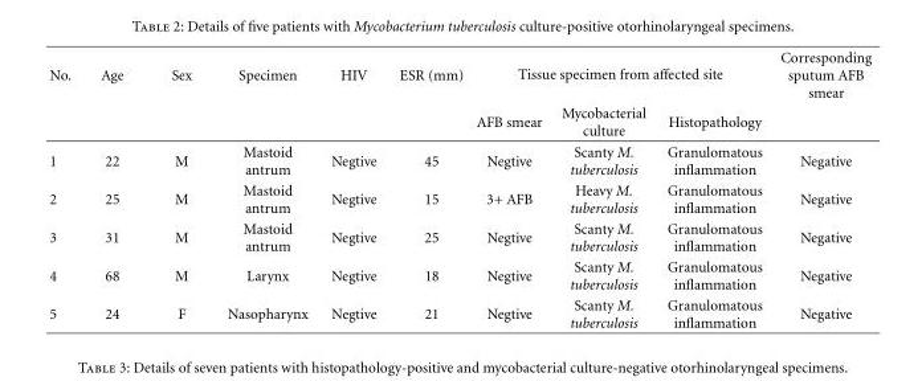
<table><thead><tr><td rowspan="2">No.</td><td rowspan="2">Age</td><td rowspan="2">Sex</td><td rowspan="2">Specimen</td><td rowspan="2">HIV</td><td rowspan="2">ESR (mm)</td><td colspan="3">Tissue specimen from affected site</td><td rowspan="2">Corresponding sputum AFB smear</td></tr><tr><td>AFB smear</td><td>Mycobacterial culture</td><td>Histopathology</td></tr></thead><tbody><tr><td>1</td><td>22</td><td>M</td><td>Mastoid antrum</td><td>Negtive</td><td>45</td><td>Negtive</td><td>Scanty M. tuberculosis</td><td>Granulomatous inflammation</td><td>Negative</td></tr><tr><td>2</td><td>25</td><td>M</td><td>Mastoid antrum</td><td>Negtive</td><td>15</td><td>3+ AFB</td><td>Heavy M. tuberculosis</td><td>Granulomatous inflammation</td><td>Negative</td></tr><tr><td>3</td><td>31</td><td>M</td><td>Mastoid antrum</td><td>Negtive</td><td>25</td><td>Negtive</td><td>Scanty M. tuberculosis</td><td>Granulomatous inflammation</td><td>Negative</td></tr><tr><td>4</td><td>68</td><td>M</td><td>Larynx</td><td>Negtive</td><td>18</td><td>Negtive</td><td>Scanty M. tuberculosis</td><td>Granulomatous inflammation</td><td>Negative</td></tr><tr><td>5</td><td>24</td><td>F</td><td>Nasopharynx</td><td>Negtive</td><td>21</td><td>Negtive</td><td>Scanty M. tuberculosis</td><td>Granulomatous inflammation</td><td>Negative</td></tr></tbody></table>